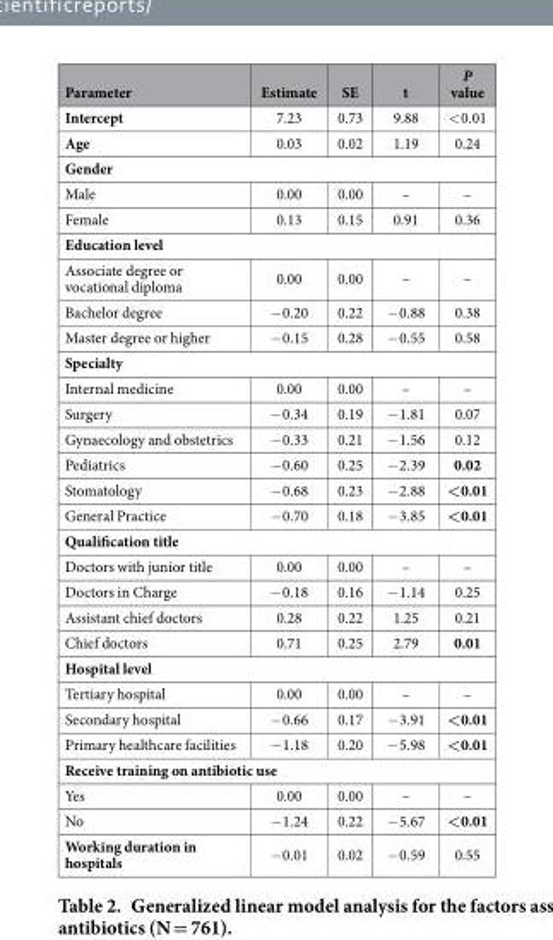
<table><thead><tr><td>Parameter</td><td>Estimate</td><td>SE</td><td>t</td><td>P value</td></tr></thead><tbody><tr><td>Intercept</td><td>7.23</td><td>0.73</td><td>9.88</td><td>&lt; 0.01</td></tr><tr><td>Age</td><td>0.03</td><td>0.02</td><td>1.19</td><td>0.24</td></tr><tr><td colspan="5">Gender</td></tr><tr><td>Male</td><td>0.00</td><td>0.00</td><td>–</td><td>–</td></tr><tr><td>Female</td><td>0.13</td><td>0.15</td><td>0.91</td><td>0.36</td></tr><tr><td colspan="5">Education level</td></tr><tr><td>Associate degree or vocational diploma</td><td>0.00</td><td>0.00</td><td>–</td><td>–</td></tr><tr><td>Bachelor degree</td><td>− 0.20</td><td>0.22</td><td>− 0.88</td><td>0.38</td></tr><tr><td>Master degree or higher</td><td>− 0.15</td><td>0.28</td><td>− 0.55</td><td>0.58</td></tr><tr><td colspan="5">Specialty</td></tr><tr><td>Internal medicine</td><td>0.00</td><td>0.00</td><td>–</td><td>–</td></tr><tr><td>Surgery</td><td>− 0.34</td><td>0.19</td><td>− 1.81</td><td>0.07</td></tr><tr><td>Gynaecology and obstetrics</td><td>− 0.33</td><td>0.21</td><td>− 1.56</td><td>0.12</td></tr><tr><td>Pediatrics</td><td>− 0.60</td><td>0.25</td><td>− 2.39</td><td>0.02</td></tr><tr><td>Stomatology</td><td>− 0.68</td><td>0.23</td><td>− 2.88</td><td>&lt;0.01</td></tr><tr><td>General Practice</td><td>− 0.70</td><td>0.18</td><td>− 3.85</td><td>&lt;0.01</td></tr><tr><td colspan="5">Qualification title</td></tr><tr><td>Doctors with junior title</td><td>0.00</td><td>0.00</td><td>–</td><td>–</td></tr><tr><td>Doctors in Charge</td><td>− 0.18</td><td>0.16</td><td>− 1.14</td><td>0.25</td></tr><tr><td>Assistant chief doctors</td><td>0.28</td><td>0.22</td><td>1.25</td><td>0.21</td></tr><tr><td>Chief doctors</td><td>0.71</td><td>0.25</td><td>2.79</td><td>0.01</td></tr><tr><td colspan="5">Hospital level</td></tr><tr><td>Tertiary hospital</td><td>0.00</td><td>0.00</td><td>–</td><td>–</td></tr><tr><td>Secondary hospital</td><td>− 0.66</td><td>0.17</td><td>− 3.91</td><td>&lt;0.01</td></tr><tr><td>Primary healthcare facilities</td><td>− 1.18</td><td>0.20</td><td>− 5.98</td><td>&lt;0.01</td></tr><tr><td colspan="5">Receive training on antibiotic use</td></tr><tr><td>Yes</td><td>0.00</td><td>0.00</td><td>–</td><td>–</td></tr><tr><td>No</td><td>− 1.24</td><td>0.22</td><td>− 5.67</td><td>&lt;0.01</td></tr><tr><td>Working duration in hospitals</td><td>− 0.01</td><td>0.02</td><td>− 0.59</td><td>0.55</td></tr></tbody></table>